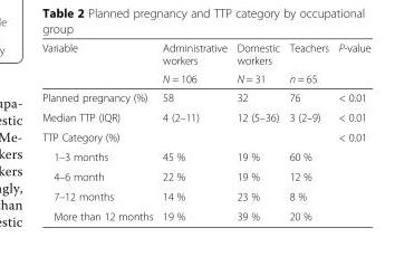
<table><thead><tr><td rowspan="2">Variable</td><td rowspan="2">Administrative workers N = 106</td><td rowspan="2">Domestic workers N = 31</td><td rowspan="2">Teachers n = 65</td><td rowspan="2">P-value</td></tr><tr></tr></thead><tbody><tr><td>Planned pregnancy (%)</td><td>58</td><td>32</td><td>76</td><td>&lt; 0.01</td></tr><tr><td>Median TTP (IQR)</td><td>4 (2–11)</td><td>12 (5–36)</td><td>3 (2–9)</td><td>&lt; 0.01</td></tr><tr><td colspan="4">TTP Category (%)</td><td rowspan="5">&lt; 0.01</td></tr><tr><td>1–3 months</td><td>45 %</td><td>19 %</td><td>60 %</td></tr><tr><td>4–6 month</td><td>22 %</td><td>19 %</td><td>12 %</td></tr><tr><td>7–12 months</td><td>14 %</td><td>23 %</td><td>8 %</td></tr><tr><td>More than 12 months</td><td>19 %</td><td>39 %</td><td>20 %</td></tr></tbody></table>